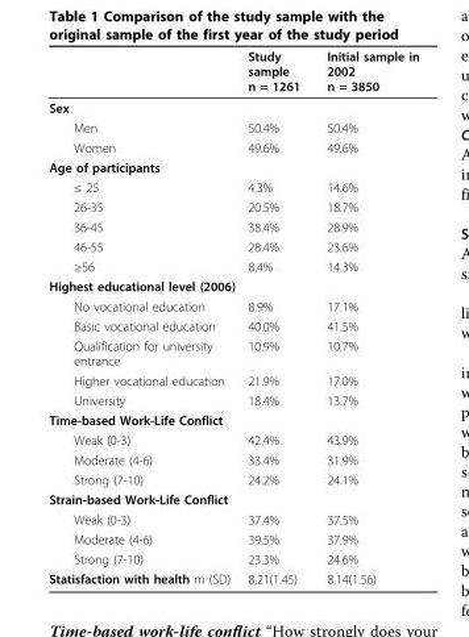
<table><thead><tr><td></td><td>Study sample n = 1261</td><td>Initial sample in 2002 n = 3850</td></tr></thead><tbody><tr><td colspan="3">Sex</td></tr><tr><td>Men</td><td>50.4%</td><td>50.4%</td></tr><tr><td>Women</td><td>49.6%</td><td>49.6%</td></tr><tr><td colspan="3">Age of participants</td></tr><tr><td>≤ 25</td><td>4.3%</td><td>14.6%</td></tr><tr><td>26-35</td><td>20.5%</td><td>18.7%</td></tr><tr><td>36-45</td><td>38.4%</td><td>28.9%</td></tr><tr><td>46-55</td><td>28.4%</td><td>23.6%</td></tr><tr><td>≥56</td><td>8.4%</td><td>14.3%</td></tr><tr><td colspan="3">Highest educational level (2006)</td></tr><tr><td>No vocational education</td><td>8.9%</td><td>17.1%</td></tr><tr><td>Basic vocational education</td><td>40.0%</td><td>41.5%</td></tr><tr><td>Qualification for university entrance</td><td>10.9%</td><td>10.7%</td></tr><tr><td>Higher vocational education</td><td>21.9%</td><td>17.0%</td></tr><tr><td>University</td><td>18.4%</td><td>13.7%</td></tr><tr><td colspan="3">Time-based Work-Life Conflict</td></tr><tr><td>Weak (0-3)</td><td>42.4%</td><td>43.9%</td></tr><tr><td>Moderate (4-6)</td><td>33.4%</td><td>31.9%</td></tr><tr><td>Strong (7-10)</td><td>24.2%</td><td>24.1%</td></tr><tr><td colspan="3">Strain-based Work-Life Conflict</td></tr><tr><td>Weak (0-3)</td><td>37.4%</td><td>37.5%</td></tr><tr><td>Moderate (4-6)</td><td>39.5%</td><td>37.9%</td></tr><tr><td>Strong (7-10)</td><td>23.3%</td><td>24.6%</td></tr><tr><td>Statisfaction with health m (SD)</td><td>8.21(1.45)</td><td>8.14(1.56)</td></tr></tbody></table>